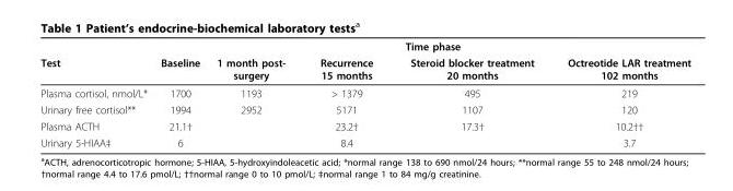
<table><thead><tr><td rowspan="2">Test</td><td colspan="5">Time phase</td></tr><tr><td>Baseline</td><td>1 month post- surgery</td><td>Recurrence 15 months</td><td>Steroid blocker treatment 20 months</td><td>Octreotide LAR treatment 102 months</td></tr></thead><tbody><tr><td>Plasma cortisol, nmol/L*</td><td>1700</td><td>1193</td><td>&gt; 1379</td><td>495</td><td>219</td></tr><tr><td>Urinary free cortisol**</td><td>1994</td><td>2952</td><td>5171</td><td>1107</td><td>120</td></tr><tr><td>Plasma ACTH</td><td>21.1†</td><td></td><td>23.2†</td><td>17.3†</td><td>10.2††</td></tr><tr><td>Urinary 5-HIAA‡</td><td>6</td><td></td><td>8.4</td><td></td><td>3.7</td></tr></tbody></table>